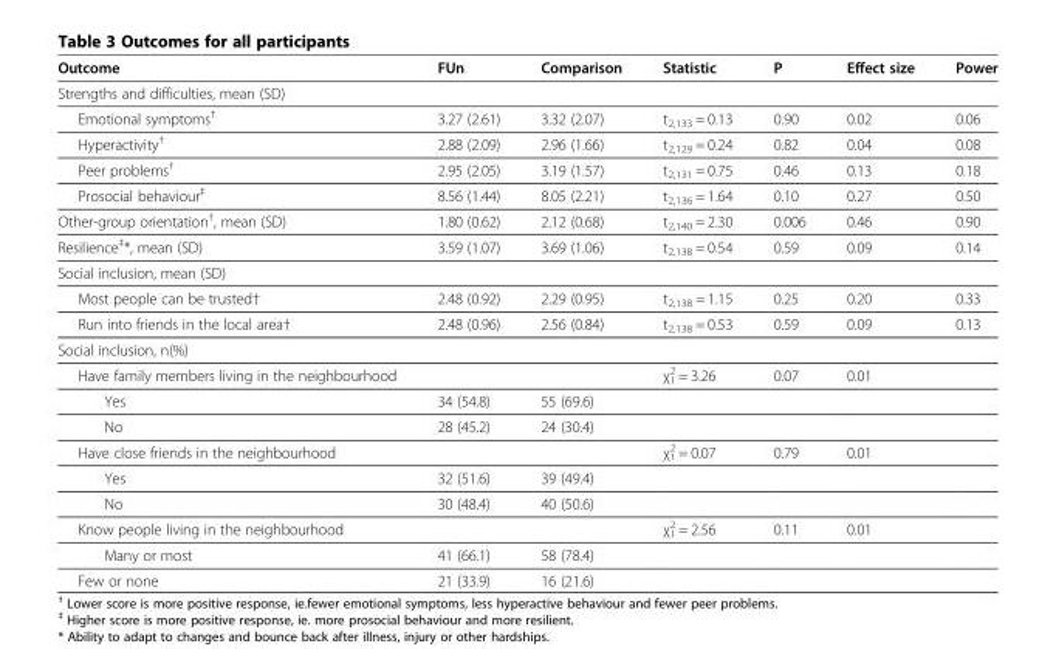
<table><thead><tr><td>Outcome</td><td>FUn</td><td>Comparison</td><td>Statistic</td><td>P</td><td>Effect size</td><td>Power</td></tr></thead><tbody><tr><td colspan="7">Strengths and difficulties, mean (SD)</td></tr><tr><td>Emotional symptoms<sup>†</sup></td><td>3.27 (2.61)</td><td>3.32 (2.07)</td><td>t<sub>2,133</sub> = 0.13</td><td>0.90</td><td>0.02</td><td>0.06</td></tr><tr><td>Hyperactivity<sup>†</sup></td><td>2.88 (2.09)</td><td>2.96 (1.66)</td><td>t<sub>2,129</sub> = 0.24</td><td>0.82</td><td>0.04</td><td>0.08</td></tr><tr><td>Peer problems<sup>†</sup></td><td>2.95 (2.05)</td><td>3.19 (1.57)</td><td>t<sub>2,131</sub> = 0.75</td><td>0.46</td><td>0.13</td><td>0.18</td></tr><tr><td>Prosocial behaviour<sup>‡</sup></td><td>8.56 (1.44)</td><td>8.05 (2.21)</td><td>t<sub>2,136</sub> = 1.64</td><td>0.10</td><td>0.27</td><td>0.50</td></tr><tr><td>Other-group orientation<sup>†</sup>, mean (SD)</td><td>1.80 (0.62)</td><td>2.12 (0.68)</td><td>t<sub>2,140</sub> = 2.30</td><td>0.006</td><td>0.46</td><td>0.90</td></tr><tr><td>Resilience<sup>‡</sup>*, mean (SD)</td><td>3.59 (1.07)</td><td>3.69 (1.06)</td><td>t<sub>2,138</sub> = 0.54</td><td>0.59</td><td>0.09</td><td>0.14</td></tr><tr><td colspan="7">Social inclusion, mean (SD)</td></tr><tr><td>Most people can be trusted†</td><td>2.48 (0.92)</td><td>2.29 (0.95)</td><td>t<sub>2,138</sub> = 1.15</td><td>0.25</td><td>0.20</td><td>0.33</td></tr><tr><td>Run into friends in the local area†</td><td>2.48 (0.96)</td><td>2.56 (0.84)</td><td>t<sub>2,138</sub> = 0.53</td><td>0.59</td><td>0.09</td><td>0.13</td></tr><tr><td colspan="7">Social inclusion, n(%)</td></tr><tr><td>Have family members living in the neighbourhood</td><td></td><td></td><td>χ<sup>2</sup> <sub>1</sub> = 3.26</td><td>0.07</td><td>0.01</td><td></td></tr><tr><td>Yes</td><td>34 (54.8)</td><td>55 (69.6)</td><td></td><td></td><td></td><td></td></tr><tr><td>No</td><td>28 (45.2)</td><td>24 (30.4)</td><td></td><td></td><td></td><td></td></tr><tr><td>Have close friends in the neighbourhood</td><td></td><td></td><td>χ<sup>2</sup> <sub>1</sub> = 0.07</td><td>0.79</td><td>0.01</td><td></td></tr><tr><td>Yes</td><td>32 (51.6)</td><td>39 (49.4)</td><td></td><td></td><td></td><td></td></tr><tr><td>No</td><td>30 (48.4)</td><td>40 (50.6)</td><td></td><td></td><td></td><td></td></tr><tr><td>Know people living in the neighbourhood</td><td></td><td></td><td>χ<sup>2</sup> <sub>1</sub> = 2.56</td><td>0.11</td><td>0.01</td><td></td></tr><tr><td>Many or most</td><td>41 (66.1)</td><td>58 (78.4)</td><td></td><td></td><td></td><td></td></tr><tr><td>Few or none</td><td>21 (33.9)</td><td>16 (21.6)</td><td></td><td></td><td></td><td></td></tr></tbody></table>